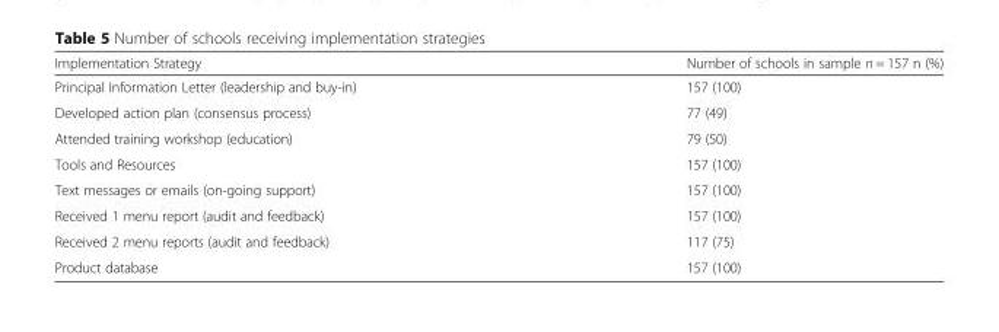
<table><thead><tr><td>Implementation Strategy</td><td>Number of schools in sample n = 157 n (%)</td></tr></thead><tbody><tr><td>Principal Information Letter (leadership and buy-in)</td><td>157 (100)</td></tr><tr><td>Developed action plan (consensus process)</td><td>77 (49)</td></tr><tr><td>Attended training workshop (education)</td><td>79 (50)</td></tr><tr><td>Tools and Resources</td><td>157 (100)</td></tr><tr><td>Text messages or emails (on-going support)</td><td>157 (100)</td></tr><tr><td>Received 1 menu report (audit and feedback)</td><td>157 (100)</td></tr><tr><td>Received 2 menu reports (audit and feedback)</td><td>117 (75)</td></tr><tr><td>Product database</td><td>157 (100)</td></tr></tbody></table>